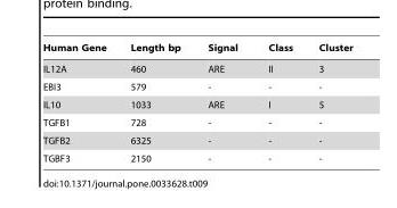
<table><thead><tr><td>Human Gene</td><td>Length bp</td><td>Signal</td><td>Class</td><td>Cluster</td></tr></thead><tbody><tr><td>IL12A</td><td>460</td><td>ARE</td><td>II</td><td>3</td></tr><tr><td>EBI3</td><td>579</td><td>-</td><td>-</td><td>-</td></tr><tr><td>IL10</td><td>1033</td><td>ARE</td><td>I</td><td>5</td></tr><tr><td>TGFB1</td><td>728</td><td>-</td><td>-</td><td>-</td></tr><tr><td>TGFB2</td><td>6325</td><td>-</td><td>-</td><td>-</td></tr><tr><td>TGBF3</td><td>2150</td><td>-</td><td>-</td><td>-</td></tr></tbody></table>